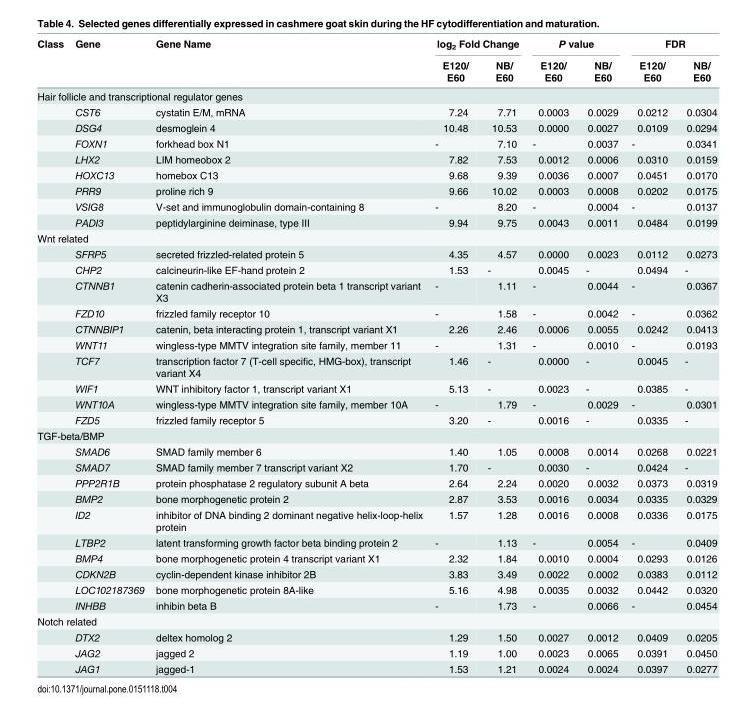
<table><thead><tr><td rowspan="2">Class</td><td rowspan="2">Gene</td><td rowspan="2">Gene Name</td><td colspan="2">log<sub>2</sub> Fold Change</td><td colspan="2">P value</td><td colspan="2">FDR</td></tr><tr><td>E120/ E60</td><td>NB/ E60</td><td>E120/ E60</td><td>NB/ E60</td><td>E120/ E60</td><td>NB/ E60</td></tr></thead><tbody><tr><td colspan="9">Hair follicle and transcriptional regulator genes</td></tr><tr><td></td><td>CST6</td><td>cystatin E/M, mRNA</td><td>7.24</td><td>7.71</td><td>0.0003</td><td>0.0029</td><td>0.0212</td><td>0.0304</td></tr><tr><td></td><td>DSG4</td><td>desmoglein 4</td><td>10.48</td><td>10.53</td><td>0.0000</td><td>0.0027</td><td>0.0109</td><td>0.0294</td></tr><tr><td></td><td>FOXN1</td><td>forkhead box N1</td><td>-</td><td>7.10</td><td>-</td><td>0.0037</td><td>-</td><td>0.0341</td></tr><tr><td></td><td>LHX2</td><td>LIM homeobox 2</td><td>7.82</td><td>7.53</td><td>0.0012</td><td>0.0006</td><td>0.0310</td><td>0.0159</td></tr><tr><td></td><td>HOXC13</td><td>homebox C13</td><td>9.68</td><td>9.39</td><td>0.0036</td><td>0.0007</td><td>0.0451</td><td>0.0170</td></tr><tr><td></td><td>PRR9</td><td>proline rich 9</td><td>9.66</td><td>10.02</td><td>0.0003</td><td>0.0008</td><td>0.0202</td><td>0.0175</td></tr><tr><td></td><td>VSIG8</td><td>V-set and immunoglobulin domain-containing 8</td><td>-</td><td>8.20</td><td>-</td><td>0.0004</td><td>-</td><td>0.0137</td></tr><tr><td></td><td>PADI3</td><td>peptidylarginine deiminase, type III</td><td>9.94</td><td>9.75</td><td>0.0043</td><td>0.0011</td><td>0.0484</td><td>0.0199</td></tr><tr><td colspan="9">Wnt related</td></tr><tr><td></td><td>SFRP5</td><td>secreted frizzled-related protein 5</td><td>4.35</td><td>4.57</td><td>0.0000</td><td>0.0023</td><td>0.0112</td><td>0.0273</td></tr><tr><td></td><td>CHP2</td><td>calcineurin-like EF-hand protein 2</td><td>1.53</td><td>-</td><td>0.0045</td><td>-</td><td>0.0494</td><td>-</td></tr><tr><td></td><td>CTNNB1</td><td>catenin cadherin-associated protein beta 1 transcript variant X3</td><td>-</td><td>1.11</td><td>-</td><td>0.0044</td><td>-</td><td>0.0367</td></tr><tr><td></td><td>FZD10</td><td>frizzled family receptor 10</td><td>-</td><td>1.58</td><td>-</td><td>0.0042</td><td>-</td><td>0.0362</td></tr><tr><td></td><td>CTNNBIP1</td><td>catenin, beta interacting protein 1, transcript variant X1</td><td>2.26</td><td>2.46</td><td>0.0006</td><td>0.0055</td><td>0.0242</td><td>0.0413</td></tr><tr><td></td><td>WNT11</td><td>wingless-type MMTV integration site family, member 11</td><td>-</td><td>1.31</td><td>-</td><td>0.0010</td><td>-</td><td>0.0193</td></tr><tr><td></td><td>TCF7</td><td>transcription factor 7 (T-cell specific, HMG-box), transcript variant X4</td><td>1.46</td><td>-</td><td>0.0000</td><td>-</td><td>0.0045</td><td>-</td></tr><tr><td></td><td>WIF1</td><td>WNT inhibitory factor 1, transcript variant X1</td><td>5.13</td><td>-</td><td>0.0023</td><td>-</td><td>0.0385</td><td>-</td></tr><tr><td></td><td>WNT10A</td><td>wingless-type MMTV integration site family, member 10A</td><td>-</td><td>1.79</td><td>-</td><td>0.0029</td><td>-</td><td>0.0301</td></tr><tr><td></td><td>FZD5</td><td>frizzled family receptor 5</td><td>3.20</td><td>-</td><td>0.0016</td><td>-</td><td>0.0335</td><td>-</td></tr><tr><td colspan="9">TGF-beta/BMP</td></tr><tr><td></td><td>SMAD6</td><td>SMAD family member 6</td><td>1.40</td><td>1.05</td><td>0.0008</td><td>0.0014</td><td>0.0268</td><td>0.0221</td></tr><tr><td></td><td>SMAD7</td><td>SMAD family member 7 transcript variant X2</td><td>1.70</td><td>-</td><td>0.0030</td><td>-</td><td>0.0424</td><td>-</td></tr><tr><td></td><td>PPP2R1B</td><td>protein phosphatase 2 regulatory subunit A beta</td><td>2.64</td><td>2.24</td><td>0.0020</td><td>0.0032</td><td>0.0373</td><td>0.0319</td></tr><tr><td></td><td>BMP2</td><td>bone morphogenetic protein 2</td><td>2.87</td><td>3.53</td><td>0.0016</td><td>0.0034</td><td>0.0335</td><td>0.0329</td></tr><tr><td></td><td>ID2</td><td>inhibitor of DNA binding 2 dominant negative helix-loop-helix protein</td><td>1.57</td><td>1.28</td><td>0.0016</td><td>0.0008</td><td>0.0336</td><td>0.0175</td></tr><tr><td></td><td>LTBP2</td><td>latent transforming growth factor beta binding protein 2</td><td>-</td><td>1.13</td><td>-</td><td>0.0054</td><td>-</td><td>0.0409</td></tr><tr><td></td><td>BMP4</td><td>bone morphogenetic protein 4 transcript variant X1</td><td>2.32</td><td>1.84</td><td>0.0010</td><td>0.0004</td><td>0.0293</td><td>0.0126</td></tr><tr><td></td><td>CDKN2B</td><td>cyclin-dependent kinase inhibitor 2B</td><td>3.83</td><td>3.49</td><td>0.0022</td><td>0.0002</td><td>0.0383</td><td>0.0112</td></tr><tr><td></td><td>LOC102187369</td><td>bone morphogenetic protein 8A-like</td><td>5.16</td><td>4.98</td><td>0.0035</td><td>0.0032</td><td>0.0442</td><td>0.0320</td></tr><tr><td></td><td>INHBB</td><td>inhibin beta B</td><td>-</td><td>1.73</td><td>-</td><td>0.0066</td><td>-</td><td>0.0454</td></tr><tr><td colspan="9">Notch related</td></tr><tr><td></td><td>DTX2</td><td>deltex homolog 2</td><td>1.29</td><td>1.50</td><td>0.0027</td><td>0.0012</td><td>0.0409</td><td>0.0205</td></tr><tr><td></td><td>JAG2</td><td>jagged 2</td><td>1.19</td><td>1.00</td><td>0.0023</td><td>0.0065</td><td>0.0391</td><td>0.0450</td></tr><tr><td></td><td>JAG1</td><td>jagged-1</td><td>1.53</td><td>1.21</td><td>0.0024</td><td>0.0024</td><td>0.0397</td><td>0.0277</td></tr></tbody></table>